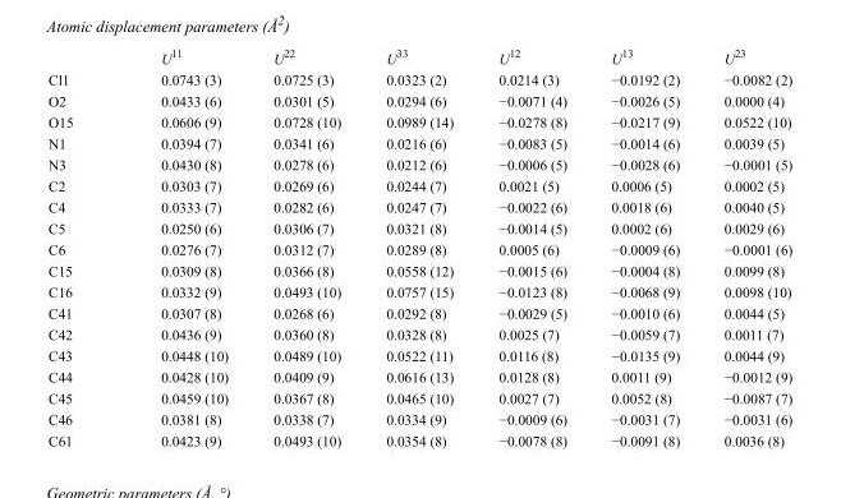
<table><thead><tr><td></td><td>U<sup>11</sup></td><td>U<sup>22</sup></td><td>U<sup>33</sup></td><td>U<sup>12</sup></td><td>U<sup>13</sup></td><td>U<sup>23</sup></td></tr></thead><tbody><tr><td>Cl1</td><td>0.0743 (3)</td><td>0.0725 (3)</td><td>0.0323 (2)</td><td>0.0214 (3)</td><td>−0.0192 (2)</td><td>−0.0082 (2)</td></tr><tr><td>O2</td><td>0.0433 (6)</td><td>0.0301 (5)</td><td>0.0294 (6)</td><td>−0.0071 (4)</td><td>−0.0026 (5)</td><td>0.0000 (4)</td></tr><tr><td>O15</td><td>0.0606 (9)</td><td>0.0728 (10)</td><td>0.0989 (14)</td><td>−0.0278 (8)</td><td>−0.0217 (9)</td><td>0.0522 (10)</td></tr><tr><td>N1</td><td>0.0394 (7)</td><td>0.0341 (6)</td><td>0.0216 (6)</td><td>−0.0083 (5)</td><td>−0.0014 (6)</td><td>0.0039 (5)</td></tr><tr><td>N3</td><td>0.0430 (8)</td><td>0.0278 (6)</td><td>0.0212 (6)</td><td>−0.0006 (5)</td><td>−0.0028 (6)</td><td>−0.0001 (5)</td></tr><tr><td>C2</td><td>0.0303 (7)</td><td>0.0269 (6)</td><td>0.0244 (7)</td><td>0.0021 (5)</td><td>0.0006 (5)</td><td>0.0002 (5)</td></tr><tr><td>C4</td><td>0.0333 (7)</td><td>0.0282 (6)</td><td>0.0247 (7)</td><td>−0.0022 (6)</td><td>0.0018 (6)</td><td>0.0040 (5)</td></tr><tr><td>C5</td><td>0.0250 (6)</td><td>0.0306 (7)</td><td>0.0321 (8)</td><td>−0.0014 (5)</td><td>0.0002 (6)</td><td>0.0029 (6)</td></tr><tr><td>C6</td><td>0.0276 (7)</td><td>0.0312 (7)</td><td>0.0289 (8)</td><td>0.0005 (6)</td><td>−0.0009 (6)</td><td>−0.0001 (6)</td></tr><tr><td>C15</td><td>0.0309 (8)</td><td>0.0366 (8)</td><td>0.0558 (12)</td><td>−0.0015 (6)</td><td>−0.0004 (8)</td><td>0.0099 (8)</td></tr><tr><td>C16</td><td>0.0332 (9)</td><td>0.0493 (10)</td><td>0.0757 (15)</td><td>−0.0123 (8)</td><td>−0.0068 (9)</td><td>0.0098 (10)</td></tr><tr><td>C41</td><td>0.0307 (8)</td><td>0.0268 (6)</td><td>0.0292 (8)</td><td>−0.0029 (5)</td><td>−0.0010 (6)</td><td>0.0044 (5)</td></tr><tr><td>C42</td><td>0.0436 (9)</td><td>0.0360 (8)</td><td>0.0328 (8)</td><td>0.0025 (7)</td><td>−0.0059 (7)</td><td>0.0011 (7)</td></tr><tr><td>C43</td><td>0.0448 (10)</td><td>0.0489 (10)</td><td>0.0522 (11)</td><td>0.0116 (8)</td><td>−0.0135 (9)</td><td>0.0044 (9)</td></tr><tr><td>C44</td><td>0.0428 (10)</td><td>0.0409 (9)</td><td>0.0616 (13)</td><td>0.0128 (8)</td><td>0.0011 (9)</td><td>−0.0012 (9)</td></tr><tr><td>C45</td><td>0.0459 (10)</td><td>0.0367 (8)</td><td>0.0465 (10)</td><td>0.0027 (7)</td><td>0.0052 (8)</td><td>−0.0087 (7)</td></tr><tr><td>C46</td><td>0.0381 (8)</td><td>0.0338 (7)</td><td>0.0334 (9)</td><td>−0.0009 (6)</td><td>−0.0031 (7)</td><td>−0.0031 (6)</td></tr><tr><td>C61</td><td>0.0423 (9)</td><td>0.0493 (10)</td><td>0.0354 (8)</td><td>−0.0078 (8)</td><td>−0.0091 (8)</td><td>0.0036 (8)</td></tr></tbody></table>